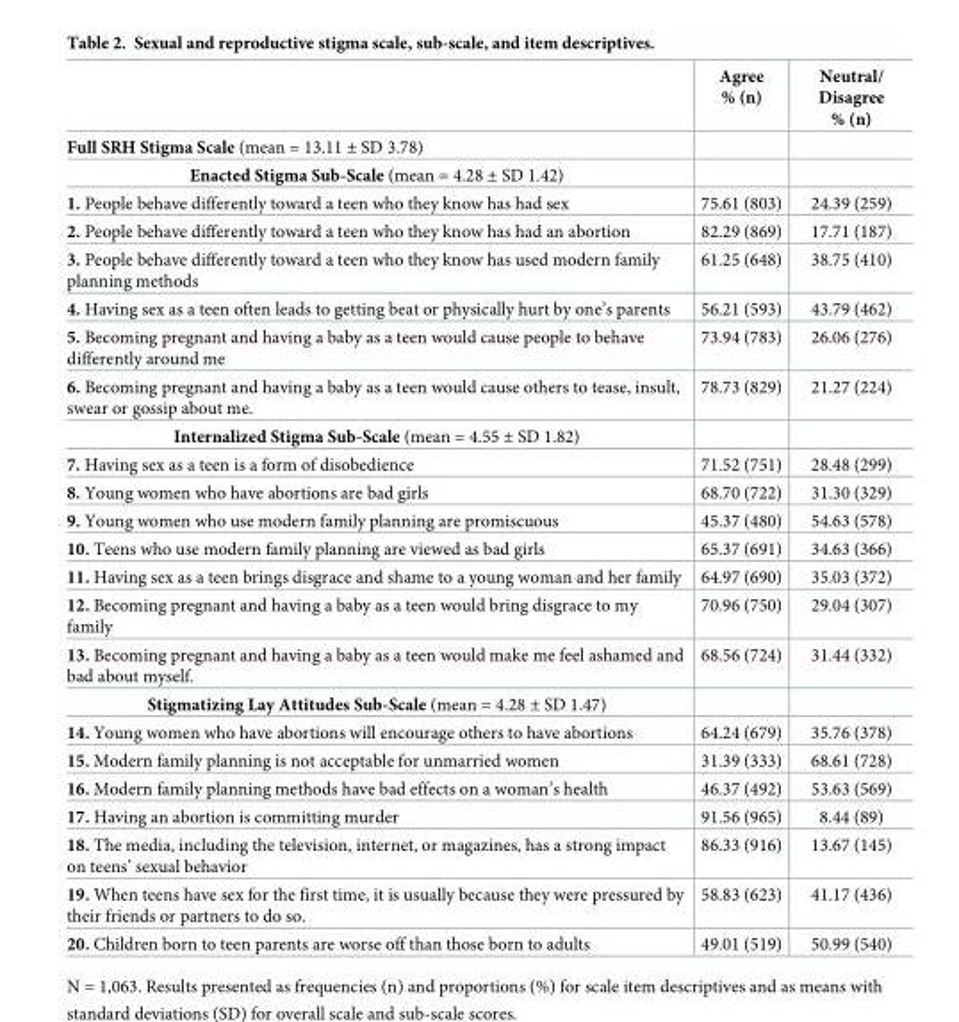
<table><thead><tr><td></td><td>Agree % (n)</td><td>Neutral/ Disagree % (n)</td></tr></thead><tbody><tr><td colspan="3">Full SRH Stigma Scale (mean = 13.11 ± SD 3.78)</td></tr><tr><td colspan="3">Enacted Stigma Sub-Scale (mean = 4.28 ± SD 1.42)</td></tr><tr><td>1. People behave differently toward a teen who they know has had sex</td><td>75.61 (803)</td><td>24.39 (259)</td></tr><tr><td>2. People behave differently toward a teen who they know has had an abortion</td><td>82.29 (869)</td><td>17.71 (187)</td></tr><tr><td>3. People behave differently toward a teen who they know has used modern family planning methods</td><td>61.25 (648)</td><td>38.75 (410)</td></tr><tr><td>4. Having sex as a teen often leads to getting beat or physically hurt by one’s parents</td><td>56.21 (593)</td><td>43.79 (462)</td></tr><tr><td>5. Becoming pregnant and having a baby as a teen would cause people to behave differently around me</td><td>73.94 (783)</td><td>26.06 (276)</td></tr><tr><td>6. Becoming pregnant and having a baby as a teen would cause others to tease, insult, swear or gossip about me.</td><td>78.73 (829)</td><td>21.27 (224)</td></tr><tr><td colspan="3">Internalized Stigma Sub-Scale (mean = 4.55 ± SD 1.82)</td></tr><tr><td>7. Having sex as a teen is a form of disobedience</td><td>71.52 (751)</td><td>28.48 (299)</td></tr><tr><td>8. Young women who have abortions are bad girls</td><td>68.70 (722)</td><td>31.30 (329)</td></tr><tr><td>9. Young women who use modern family planning are promiscuous</td><td>45.37 (480)</td><td>54.63 (578)</td></tr><tr><td>10. Teens who use modern family planning are viewed as bad girls</td><td>65.37 (691)</td><td>34.63 (366)</td></tr><tr><td>11. Having sex as a teen brings disgrace and shame to a young woman and her family</td><td>64.97 (690)</td><td>35.03 (372)</td></tr><tr><td>12. Becoming pregnant and having a baby as a teen would bring disgrace to my family</td><td>70.96 (750)</td><td>29.04 (307)</td></tr><tr><td>13. Becoming pregnant and having a baby as a teen would make me feel ashamed and bad about myself.</td><td>68.56 (724)</td><td>31.44 (332)</td></tr><tr><td colspan="3">Stigmatizing Lay Attitudes Sub-Scale (mean = 4.28 ± SD 1.47)</td></tr><tr><td>14. Young women who have abortions will encourage others to have abortions</td><td>64.24 (679)</td><td>35.76 (378)</td></tr><tr><td>15. Modern family planning is not acceptable for unmarried women</td><td>31.39 (333)</td><td>68.61 (728)</td></tr><tr><td>16. Modern family planning methods have bad effects on a woman’s health</td><td>46.37 (492)</td><td>53.63 (569)</td></tr><tr><td>17. Having an abortion is committing murder</td><td>91.56 (965)</td><td>8.44 (89)</td></tr><tr><td>18. The media, including the television, internet, or magazines, has a strong impact on teens’ sexual behavior</td><td>86.33 (916)</td><td>13.67 (145)</td></tr><tr><td>19. When teens have sex for the first time, it is usually because they were pressured by their friends or partners to do so.</td><td>58.83 (623)</td><td>41.17 (436)</td></tr><tr><td>20. Children born to teen parents are worse off than those born to adults</td><td>49.01 (519)</td><td>50.99 (540)</td></tr></tbody></table>